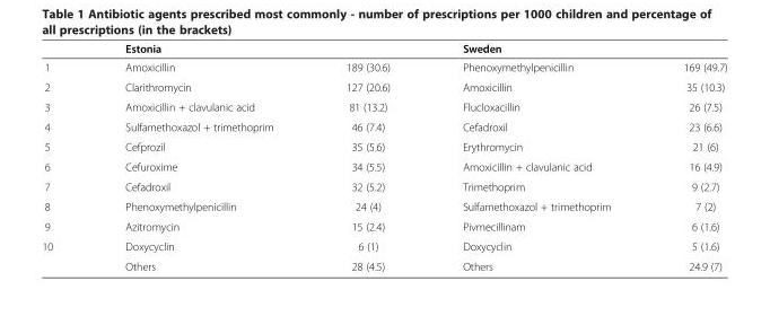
<table><thead><tr><td rowspan="2">1</td><td colspan="2">Estonia</td><td colspan="2">Sweden</td></tr><tr><td>Amoxicillin</td><td>189 (30.6)</td><td>Phenoxymethylpenicillin</td><td>169 (49.7)</td></tr></thead><tbody><tr><td>2</td><td>Clarithromycin</td><td>127 (20.6)</td><td>Amoxicillin</td><td>35 (10.3)</td></tr><tr><td>3</td><td>Amoxicillin + clavulanic acid</td><td>81 (13.2)</td><td>Flucloxacillin</td><td>26 (7.5)</td></tr><tr><td>4</td><td>Sulfamethoxazol + trimethoprim</td><td>46 (7.4)</td><td>Cefadroxil</td><td>23 (6.6)</td></tr><tr><td>5</td><td>Cefprozil</td><td>35 (5.6)</td><td>Erythromycin</td><td>21 (6)</td></tr><tr><td>6</td><td>Cefuroxime</td><td>34 (5.5)</td><td>Amoxicillin + clavulanic acid</td><td>16 (4.9)</td></tr><tr><td>7</td><td>Cefadroxil</td><td>32 (5.2)</td><td>Trimethoprim</td><td>9 (2.7)</td></tr><tr><td>8</td><td>Phenoxymethylpenicillin</td><td>24 (4)</td><td>Sulfamethoxazol + trimethoprim</td><td>7 (2)</td></tr><tr><td>9</td><td>Azitromycin</td><td>15 (2.4)</td><td>Pivmecillinam</td><td>6 (1.6)</td></tr><tr><td rowspan="2">10</td><td>Doxycyclin</td><td>6 (1)</td><td>Doxycyclin</td><td>5 (1.6)</td></tr><tr><td>Others</td><td>28 (4.5)</td><td>Others</td><td>24.9 (7)</td></tr></tbody></table>